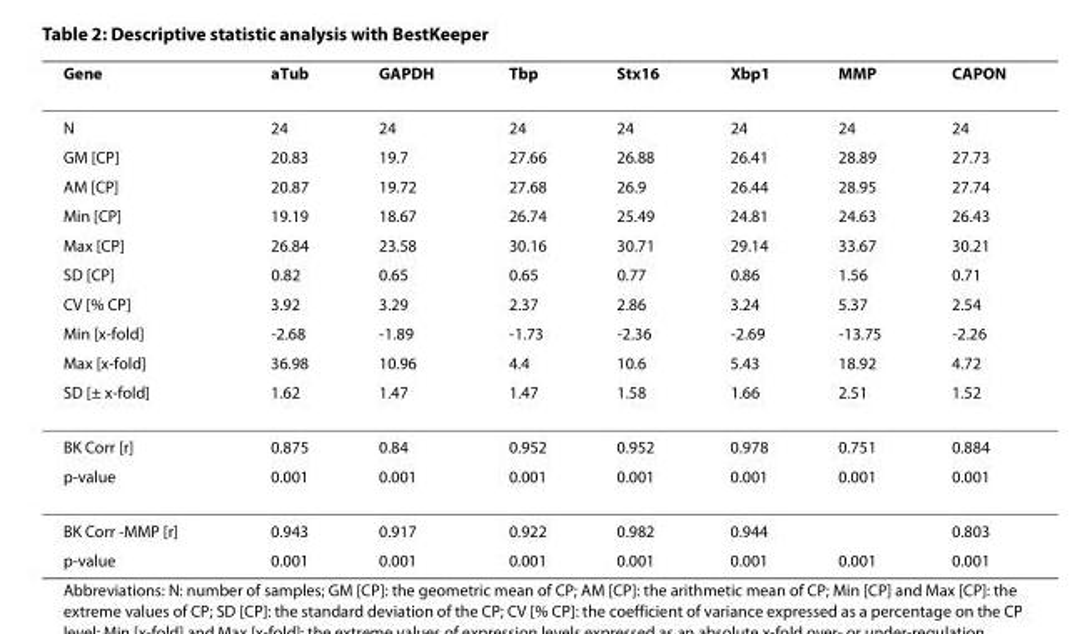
<table><thead><tr><td>Gene</td><td>aTub</td><td>GAPDH</td><td>Tbp</td><td>Stx16</td><td>Xbp1</td><td>MMP</td><td>CAPON</td></tr></thead><tbody><tr><td>N</td><td>24</td><td>24</td><td>24</td><td>24</td><td>24</td><td>24</td><td>24</td></tr><tr><td>GM [CP]</td><td>20.83</td><td>19.7</td><td>27.66</td><td>26.88</td><td>26.41</td><td>28.89</td><td>27.73</td></tr><tr><td>AM [CP]</td><td>20.87</td><td>19.72</td><td>27.68</td><td>26.9</td><td>26.44</td><td>28.95</td><td>27.74</td></tr><tr><td>Min [CP]</td><td>19.19</td><td>18.67</td><td>26.74</td><td>25.49</td><td>24.81</td><td>24.63</td><td>26.43</td></tr><tr><td>Max [CP]</td><td>26.84</td><td>23.58</td><td>30.16</td><td>30.71</td><td>29.14</td><td>33.67</td><td>30.21</td></tr><tr><td>SD [CP]</td><td>0.82</td><td>0.65</td><td>0.65</td><td>0.77</td><td>0.86</td><td>1.56</td><td>0.71</td></tr><tr><td>CV [% CP]</td><td>3.92</td><td>3.29</td><td>2.37</td><td>2.86</td><td>3.24</td><td>5.37</td><td>2.54</td></tr><tr><td>Min [x-fold]</td><td>-2.68</td><td>-1.89</td><td>-1.73</td><td>-2.36</td><td>-2.69</td><td>-13.75</td><td>-2.26</td></tr><tr><td>Max [x-fold]</td><td>36.98</td><td>10.96</td><td>4.4</td><td>10.6</td><td>5.43</td><td>18.92</td><td>4.72</td></tr><tr><td>SD [± x-fold]</td><td>1.62</td><td>1.47</td><td>1.47</td><td>1.58</td><td>1.66</td><td>2.51</td><td>1.52</td></tr><tr><td>BK Corr [r]</td><td>0.875</td><td>0.84</td><td>0.952</td><td>0.952</td><td>0.978</td><td>0.751</td><td>0.884</td></tr><tr><td>p-value</td><td>0.001</td><td>0.001</td><td>0.001</td><td>0.001</td><td>0.001</td><td>0.001</td><td>0.001</td></tr><tr><td>BK Corr -MMP [r]</td><td>0.943</td><td>0.917</td><td>0.922</td><td>0.982</td><td>0.944</td><td></td><td>0.803</td></tr><tr><td>p-value</td><td>0.001</td><td>0.001</td><td>0.001</td><td>0.001</td><td>0.001</td><td>0.001</td><td>0.001</td></tr></tbody></table>